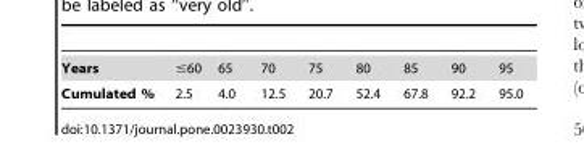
<table><tbody><tr><td>Years</td><td>≤60</td><td>65</td><td>70</td><td>75</td><td>80</td><td>85</td><td>90</td><td>95</td></tr><tr><td>Cumulated %</td><td>2.5</td><td>4.0</td><td>12.5</td><td>20.7</td><td>52.4</td><td>67.8</td><td>92.2</td><td>95.0</td></tr></tbody></table>